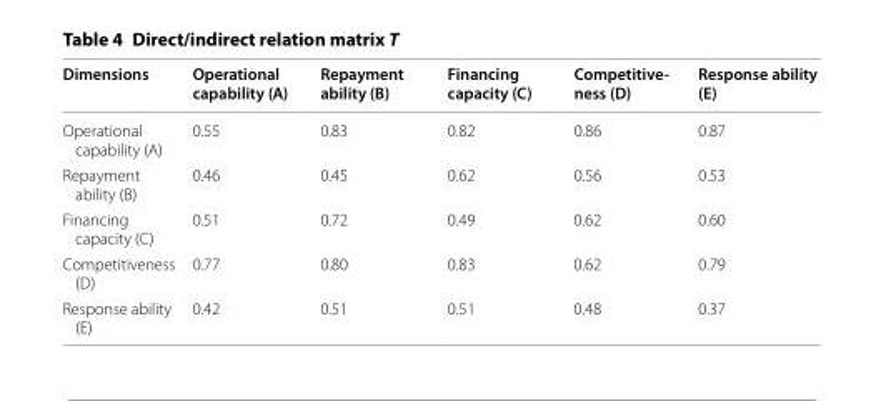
<table><thead><tr><td>Dimensions</td><td>Operational capability (A)</td><td>Repayment ability (B)</td><td>Financing capacity (C)</td><td>Competitive- ness (D)</td><td>Response ability (E)</td></tr></thead><tbody><tr><td>Operational capability (A)</td><td>0.55</td><td>0.83</td><td>0.82</td><td>0.86</td><td>0.87</td></tr><tr><td>Repayment ability (B)</td><td>0.46</td><td>0.45</td><td>0.62</td><td>0.56</td><td>0.53</td></tr><tr><td>Financing capacity (C)</td><td>0.51</td><td>0.72</td><td>0.49</td><td>0.62</td><td>0.60</td></tr><tr><td>Competitiveness (D)</td><td>0.77</td><td>0.80</td><td>0.83</td><td>0.62</td><td>0.79</td></tr><tr><td>Response ability (E)</td><td>0.42</td><td>0.51</td><td>0.51</td><td>0.48</td><td>0.37</td></tr></tbody></table>